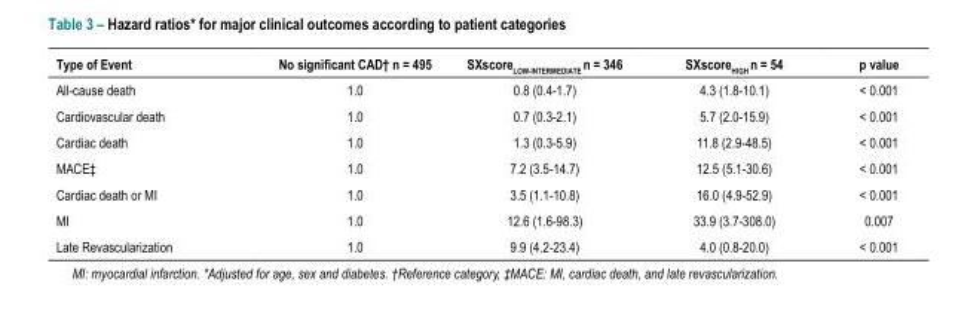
<table><thead><tr><td>Type of Event</td><td>No significant CAD† n = 495</td><td>SXscore<sub>LOW-INTERMEDIATE</sub> n = 346</td><td>SXscore<sub>HIGH</sub> n = 54</td><td>p value</td></tr></thead><tbody><tr><td>All-cause death</td><td>1.0</td><td>0.8 (0.4-1.7)</td><td>4.3 (1.8-10.1)</td><td>&lt; 0.001</td></tr><tr><td>Cardiovascular death</td><td>1.0</td><td>0.7 (0.3-2.1)</td><td>5.7 (2.0-15.9)</td><td>&lt; 0.001</td></tr><tr><td>Cardiac death</td><td>1.0</td><td>1.3 (0.3-5.9)</td><td>11.8 (2.9-48.5)</td><td>&lt; 0.001</td></tr><tr><td>MACE‡</td><td>1.0</td><td>7.2 (3.5-14.7)</td><td>12.5 (5.1-30.6)</td><td>&lt; 0.001</td></tr><tr><td>Cardiac death or MI</td><td>1.0</td><td>3.5 (1.1-10.8)</td><td>16.0 (4.9-52.9)</td><td>&lt; 0.001</td></tr><tr><td>MI</td><td>1.0</td><td>12.6 (1.6-98.3)</td><td>33.9 (3.7-308.0)</td><td>0.007</td></tr><tr><td>Late Revascularization</td><td>1.0</td><td>9.9 (4.2-23.4)</td><td>4.0 (0.8-20.0)</td><td>&lt; 0.001</td></tr></tbody></table>